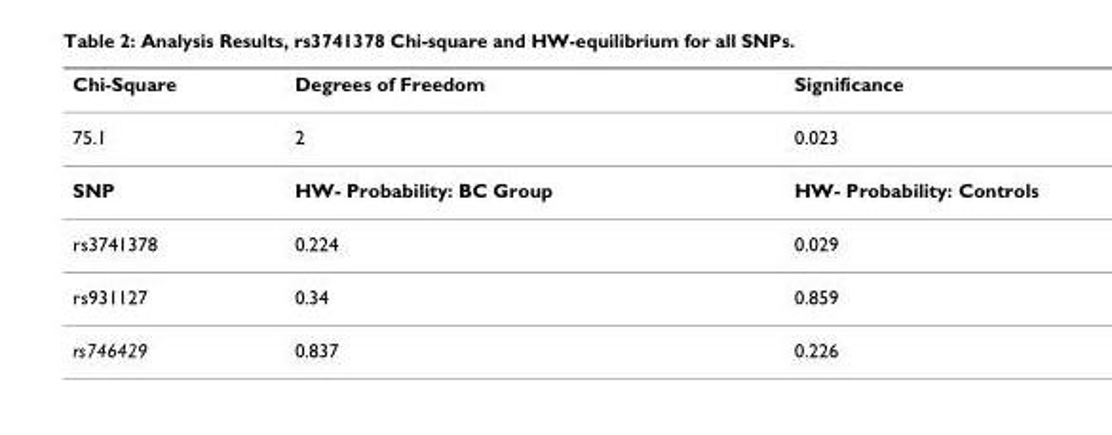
<table><thead><tr><td>Chi-Square</td><td>Degrees of Freedom</td><td>Significance</td></tr></thead><tbody><tr><td>75.1</td><td>2</td><td>0.023</td></tr><tr><td>SNP</td><td>HW- Probability: BC Group</td><td>HW- Probability: Controls</td></tr><tr><td>rs3741378</td><td>0.224</td><td>0.029</td></tr><tr><td>rs931127</td><td>0.34</td><td>0.859</td></tr><tr><td>rs746429</td><td>0.837</td><td>0.226</td></tr></tbody></table>